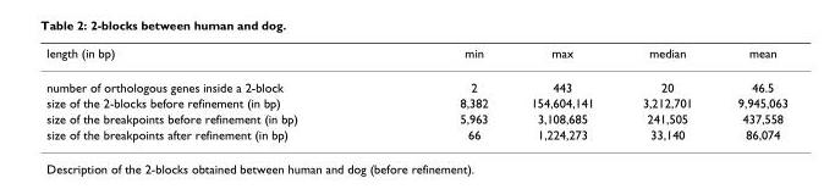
<table><thead><tr><td>length (in bp)</td><td>min</td><td>max</td><td>median</td><td>mean</td></tr></thead><tbody><tr><td>number of orthologous genes inside a 2-block</td><td>2</td><td>443</td><td>20</td><td>46.5</td></tr><tr><td>size of the 2-blocks before refinement (in bp)</td><td>8,382</td><td>154,604,141</td><td>3,212,701</td><td>9,945,063</td></tr><tr><td>size of the breakpoints before refinement (in bp)</td><td>5,963</td><td>3,108,685</td><td>241,505</td><td>437,558</td></tr><tr><td>size of the breakpoints after refinement (in bp)</td><td>66</td><td>1,224,273</td><td>33,140</td><td>86,074</td></tr></tbody></table>